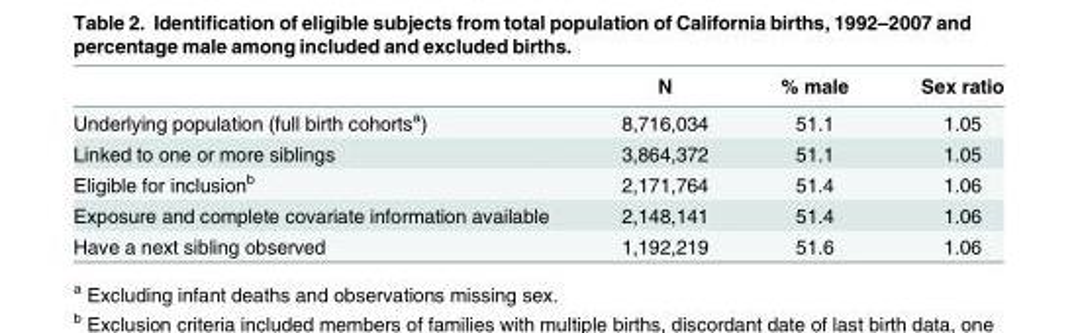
<table><thead><tr><td></td><td>N</td><td>% male</td><td>Sex ratio</td></tr></thead><tbody><tr><td>Underlying population (full birth cohorts<sup>a</sup>)</td><td>8,716,034</td><td>51.1</td><td>1.05</td></tr><tr><td>Linked to one or more siblings</td><td>3,864,372</td><td>51.1</td><td>1.05</td></tr><tr><td>Eligible for inclusion<sup>b</sup></td><td>2,171,764</td><td>51.4</td><td>1.06</td></tr><tr><td>Exposure and complete covariate information available</td><td>2,148,141</td><td>51.4</td><td>1.06</td></tr><tr><td>Have a next sibling observed</td><td>1,192,219</td><td>51.6</td><td>1.06</td></tr></tbody></table>